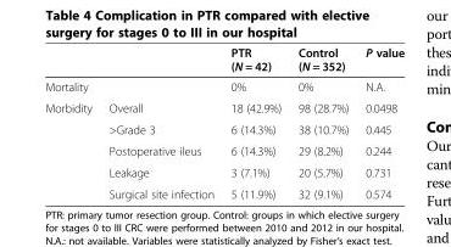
<table><thead><tr><td></td><td></td><td>PTR (N = 42)</td><td>Control (N = 352)</td><td>P value</td></tr></thead><tbody><tr><td>Mortality</td><td></td><td>0%</td><td>0%</td><td>N.A.</td></tr><tr><td rowspan="5">Morbidity</td><td>Overall</td><td>18 (42.9%)</td><td>98 (28.7%)</td><td>0.0498</td></tr><tr><td>&gt;Grade 3</td><td>6 (14.3%)</td><td>38 (10.7%)</td><td>0.445</td></tr><tr><td>Postoperative ileus</td><td>6 (14.3%)</td><td>29 (8.2%)</td><td>0.244</td></tr><tr><td>Leakage</td><td>3 (7.1%)</td><td>20 (5.7%)</td><td>0.731</td></tr><tr><td>Surgical site infection</td><td>5 (11.9%)</td><td>32 (9.1%)</td><td>0.574</td></tr></tbody></table>